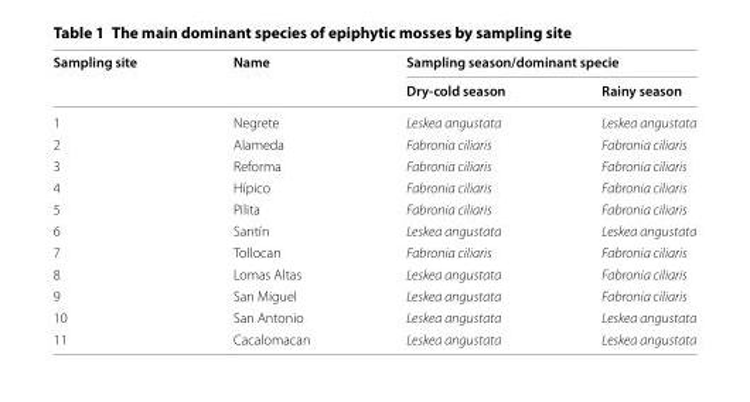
<table><thead><tr><td rowspan="2">Sampling site</td><td rowspan="2">Name</td><td colspan="2">Sampling season/dominant specie</td></tr><tr><td>Dry-cold season</td><td>Rainy season</td></tr></thead><tbody><tr><td>1</td><td>Negrete</td><td>Leskea angustata</td><td>Leskea angustata</td></tr><tr><td>2</td><td>Alameda</td><td>Fabronia ciliaris</td><td>Fabronia ciliaris</td></tr><tr><td>3</td><td>Reforma</td><td>Fabronia ciliaris</td><td>Fabronia ciliaris</td></tr><tr><td>4</td><td>Hípico</td><td>Fabronia ciliaris</td><td>Fabronia ciliaris</td></tr><tr><td>5</td><td>Pilita</td><td>Fabronia ciliaris</td><td>Fabronia ciliaris</td></tr><tr><td>6</td><td>Santín</td><td>Leskea angustata</td><td>Leskea angustata</td></tr><tr><td>7</td><td>Tollocan</td><td>Fabronia ciliaris</td><td>Fabronia ciliaris</td></tr><tr><td>8</td><td>Lomas Altas</td><td>Leskea angustata</td><td>Fabronia ciliaris</td></tr><tr><td>9</td><td>San Miguel</td><td>Leskea angustata</td><td>Fabronia ciliaris</td></tr><tr><td>10</td><td>San Antonio</td><td>Leskea angustata</td><td>Leskea angustata</td></tr><tr><td>11</td><td>Cacalomacan</td><td>Leskea angustata</td><td>Leskea angustata</td></tr></tbody></table>